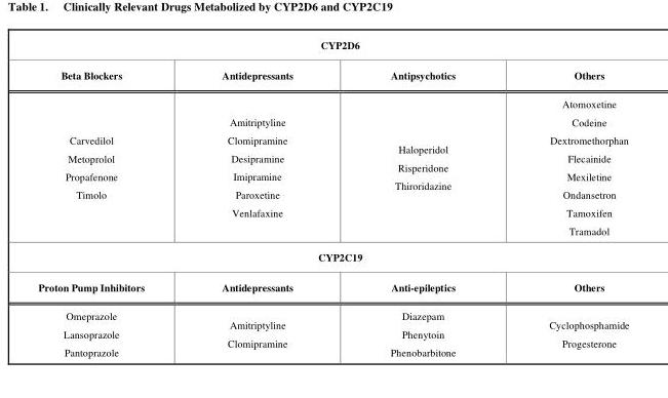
<table><thead><tr><td colspan="4">CYP2D6</td></tr><tr><td>Beta Blockers</td><td>Antidepressants</td><td>Antipsychotics</td><td>Others</td></tr></thead><tbody><tr><td>Carvedilol Metoprolol Propafenone Timolo</td><td>Amitriptyline Clomipramine Desipramine Imipramine Paroxetine Venlafaxine</td><td>Haloperidol Risperidone Thiroridazine</td><td>Atomoxetine Codeine Dextromethorphan Flecainide Mexiletine Ondansetron Tamoxifen Tramadol</td></tr><tr><td colspan="4">CYP2C19</td></tr><tr><td>Proton Pump Inhibitors</td><td>Antidepressants</td><td>Anti-epileptics</td><td>Others</td></tr><tr><td>Omeprazole Lansoprazole Pantoprazole</td><td>Amitriptyline Clomipramine</td><td>Diazepam Phenytoin Phenobarbitone</td><td>Cyclophosphamide Progesterone</td></tr></tbody></table>